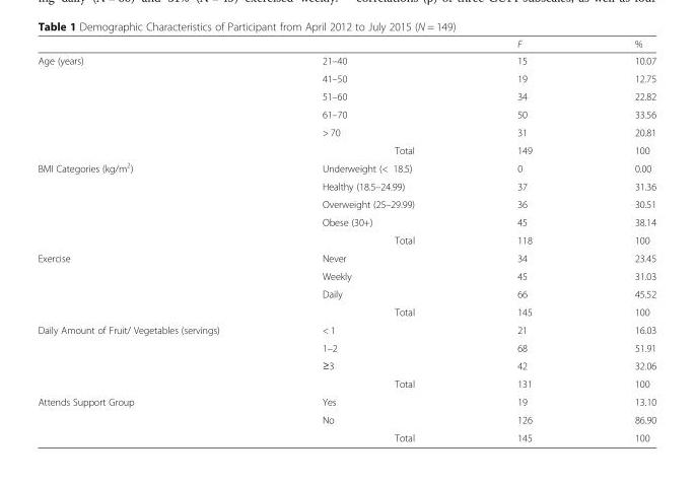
<table><thead><tr><td></td><td></td><td>F</td><td>%</td></tr></thead><tbody><tr><td rowspan="6">Age (years)</td><td>21–40</td><td>15</td><td>10.07</td></tr><tr><td>41–50</td><td>19</td><td>12.75</td></tr><tr><td>51–60</td><td>34</td><td>22.82</td></tr><tr><td>61–70</td><td>50</td><td>33.56</td></tr><tr><td>&gt; 70</td><td>31</td><td>20.81</td></tr><tr><td>Total</td><td>149</td><td>100</td></tr><tr><td rowspan="5">BMI Categories (kg/m<sup>2</sup>)</td><td>Underweight (&lt; 18.5)</td><td>0</td><td>0.00</td></tr><tr><td>Healthy (18.5–24.99)</td><td>37</td><td>31.36</td></tr><tr><td>Overweight (25–29.99)</td><td>36</td><td>30.51</td></tr><tr><td>Obese (30+)</td><td>45</td><td>38.14</td></tr><tr><td>Total</td><td>118</td><td>100</td></tr><tr><td rowspan="4">Exercise</td><td>Never</td><td>34</td><td>23.45</td></tr><tr><td>Weekly</td><td>45</td><td>31.03</td></tr><tr><td>Daily</td><td>66</td><td>45.52</td></tr><tr><td>Total</td><td>145</td><td>100</td></tr><tr><td rowspan="4">Daily Amount of Fruit/ Vegetables (servings)</td><td>&lt; 1</td><td>21</td><td>16.03</td></tr><tr><td>1–2</td><td>68</td><td>51.91</td></tr><tr><td>≥3</td><td>42</td><td>32.06</td></tr><tr><td>Total</td><td>131</td><td>100</td></tr><tr><td rowspan="3">Attends Support Group</td><td>Yes</td><td>19</td><td>13.10</td></tr><tr><td>No</td><td>126</td><td>86.90</td></tr><tr><td>Total</td><td>145</td><td>100</td></tr></tbody></table>